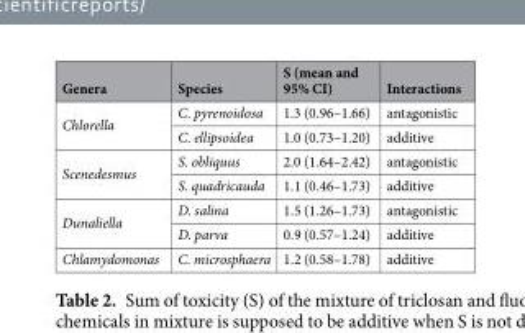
<table><thead><tr><td>Genera</td><td>Species</td><td>S (mean and 95% CI)</td><td>Interactions</td></tr></thead><tbody><tr><td rowspan="2">Chlorella</td><td>C. pyrenoidosa</td><td>1.3 (0.96–1.66)</td><td>antagonistic</td></tr><tr><td>C. ellipsoidea</td><td>1.0 (0.73–1.20)</td><td>additive</td></tr><tr><td rowspan="2">Scenedesmus</td><td>S. obliquus</td><td>2.0 (1.64–2.42)</td><td>antagonistic</td></tr><tr><td>S. quadricauda</td><td>1.1 (0.46–1.73)</td><td>additive</td></tr><tr><td rowspan="2">Dunaliella</td><td>D. salina</td><td>1.5 (1.26–1.73)</td><td>antagonistic</td></tr><tr><td>D. parva</td><td>0.9 (0.57–1.24)</td><td>additive</td></tr><tr><td>Chlamydomonas</td><td>C. microsphaera</td><td>1.2 (0.58–1.78)</td><td>additive</td></tr></tbody></table>